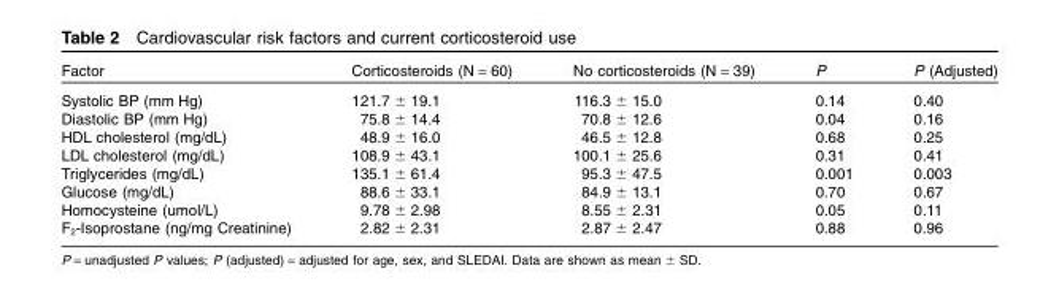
<table><thead><tr><td>Factor</td><td>Corticosteroids (N = 60)</td><td>No corticosteroids (N = 39)</td><td>P</td><td>P (Adjusted)</td></tr></thead><tbody><tr><td>Systolic BP (mm Hg)</td><td>121.7 ± 19.1</td><td>116.3 ± 15.0</td><td>0.14</td><td>0.40</td></tr><tr><td>Diastolic BP (mm Hg)</td><td>75.8 ± 14.4</td><td>70.8 ± 12.6</td><td>0.04</td><td>0.16</td></tr><tr><td>HDL cholesterol (mg/dL)</td><td>48.9 ± 16.0</td><td>46.5 ± 12.8</td><td>0.68</td><td>0.25</td></tr><tr><td>LDL cholesterol (mg/dL)</td><td>108.9 ± 43.1</td><td>100.1 ± 25.6</td><td>0.31</td><td>0.41</td></tr><tr><td>Triglycerides (mg/dL)</td><td>135.1 ± 61.4</td><td>95.3 ± 47.5</td><td>0.001</td><td>0.003</td></tr><tr><td>Glucose (mg/dL)</td><td>88.6 ± 33.1</td><td>84.9 ± 13.1</td><td>0.70</td><td>0.67</td></tr><tr><td>Homocysteine (umol/L)</td><td>9.78 ± 2.98</td><td>8.55 ± 2.31</td><td>0.05</td><td>0.11</td></tr><tr><td>F<sub>2</sub>-Isoprostane (ng/mg Creatinine)</td><td>2.82 ± 2.31</td><td>2.87 ± 2.47</td><td>0.88</td><td>0.96</td></tr></tbody></table>